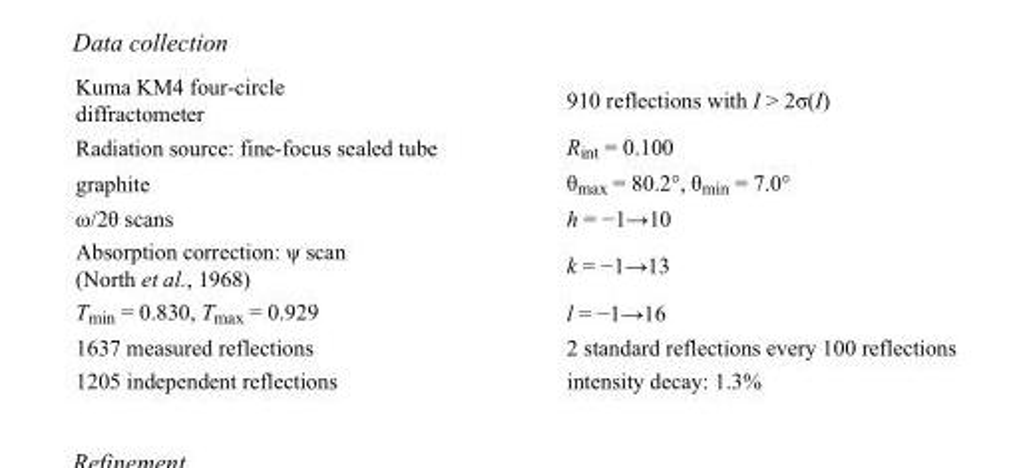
<table><tbody><tr><td>Kuma KM4 four-circle diffractometer</td><td>910 reflections with I &gt; 2σ(I)</td></tr><tr><td>Radiation source: fine-focus sealed tube</td><td>R<sub>int</sub> = 0.100</td></tr><tr><td>graphite</td><td>θ<sub>max</sub> = 80.2°, θ<sub>min</sub> = 7.0°</td></tr><tr><td>ω/2θ scans</td><td>h = −1→10</td></tr><tr><td>Absorption correction: ψ scan (North et al., 1968)</td><td>k = −1→13</td></tr><tr><td>T<sub>min</sub> = 0.830, T<sub>max</sub> = 0.929</td><td>l = −1→16</td></tr><tr><td>1637 measured reflections</td><td>2 standard reflections every 100 reflections</td></tr><tr><td>1205 independent reflections</td><td>intensity decay: 1.3%</td></tr></tbody></table>